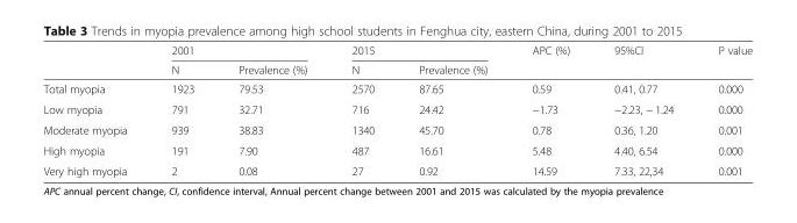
<table><thead><tr><td rowspan="2"></td><td colspan="2">2001</td><td colspan="2">2015</td><td rowspan="2">APC (%)</td><td rowspan="2">95%CI</td><td rowspan="2">P value</td></tr><tr><td>N</td><td>Prevalence (%)</td><td>N</td><td>Prevalence (%)</td></tr></thead><tbody><tr><td>Total myopia</td><td>1923</td><td>79.53</td><td>2570</td><td>87.65</td><td>0.59</td><td>0.41, 0.77</td><td>0.000</td></tr><tr><td>Low myopia</td><td>791</td><td>32.71</td><td>716</td><td>24.42</td><td>−1.73</td><td>−2.23, − 1.24</td><td>0.000</td></tr><tr><td>Moderate myopia</td><td>939</td><td>38.83</td><td>1340</td><td>45.70</td><td>0.78</td><td>0.36, 1.20</td><td>0.001</td></tr><tr><td>High myopia</td><td>191</td><td>7.90</td><td>487</td><td>16.61</td><td>5.48</td><td>4.40, 6.54</td><td>0.000</td></tr><tr><td>Very high myopia</td><td>2</td><td>0.08</td><td>27</td><td>0.92</td><td>14.59</td><td>7.33, 22,34</td><td>0.001</td></tr></tbody></table>